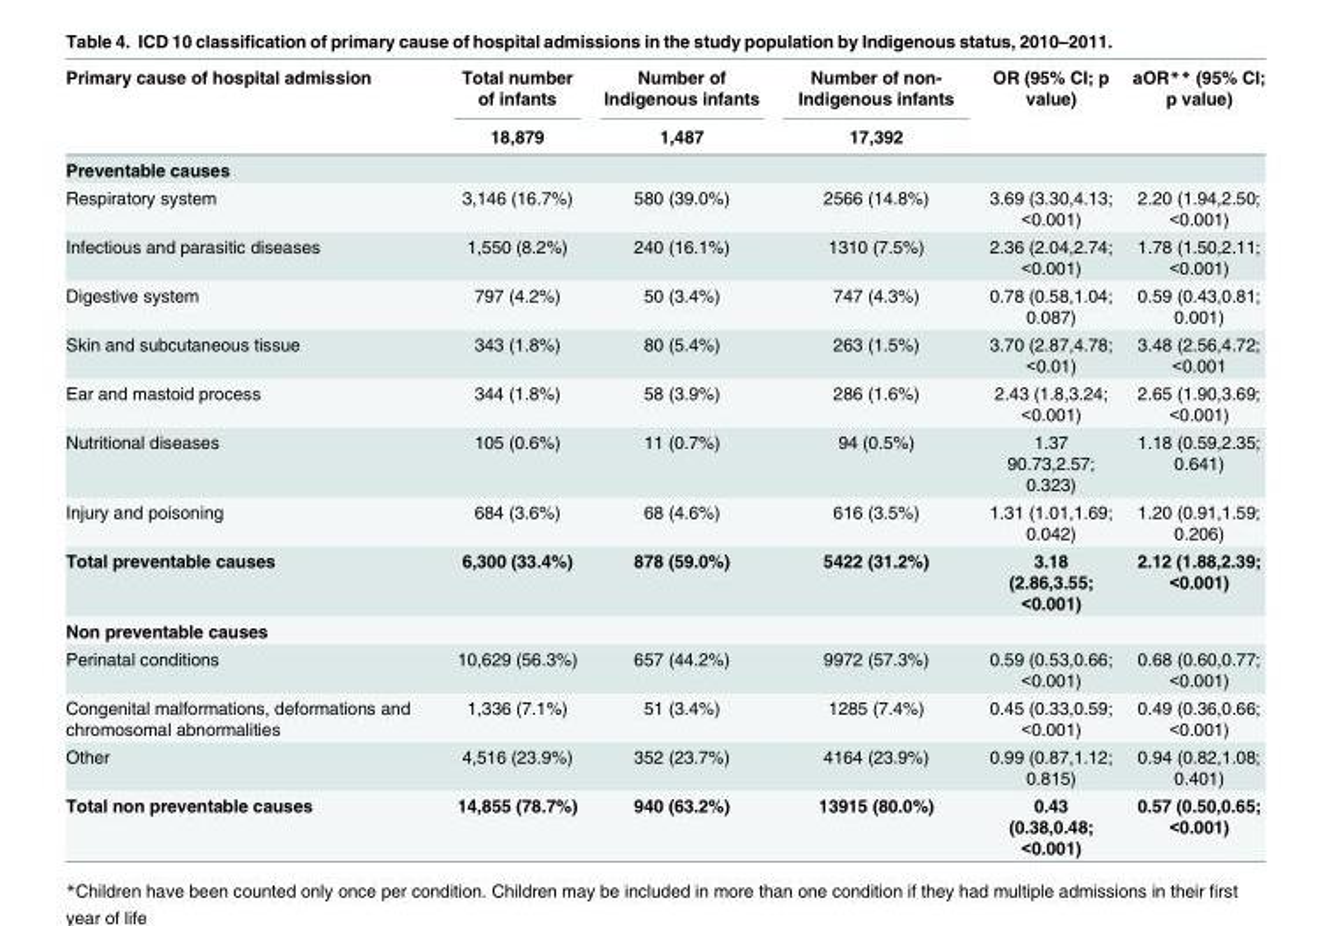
<table><thead><tr><td rowspan="2">Primary cause of hospital admission</td><td rowspan="2">Total number of infants 18,879</td><td rowspan="2">Number of Indigenous infants 1,487</td><td rowspan="2">Number of non- Indigenous infants 17,392</td><td rowspan="2">OR (95% CI; p value)</td><td rowspan="2">aOR** (95% CI; p value)</td></tr><tr></tr></thead><tbody><tr><td colspan="6">Preventable causes</td></tr><tr><td>Respiratory system</td><td>3,146 (16.7%)</td><td>580 (39.0%)</td><td>2566 (14.8%)</td><td>3.69 (3.30,4.13; &lt;0.001)</td><td>2.20 (1.94,2.50; &lt;0.001)</td></tr><tr><td>Infectious and parasitic diseases</td><td>1,550 (8.2%)</td><td>240 (16.1%)</td><td>1310 (7.5%)</td><td>2.36 (2.04,2.74; &lt;0.001)</td><td>1.78 (1.50,2.11; &lt;0.001)</td></tr><tr><td>Digestive system</td><td>797 (4.2%)</td><td>50 (3.4%)</td><td>747 (4.3%)</td><td>0.78 (0.58,1.04; 0.087)</td><td>0.59 (0.43,0.81; 0.001)</td></tr><tr><td>Skin and subcutaneous tissue</td><td>343 (1.8%)</td><td>80 (5.4%)</td><td>263 (1.5%)</td><td>3.70 (2.87,4.78; &lt;0.01)</td><td>3.48 (2.56,4.72; &lt;0.001</td></tr><tr><td>Ear and mastoid process</td><td>344 (1.8%)</td><td>58 (3.9%)</td><td>286 (1.6%)</td><td>2.43 (1.8,3.24; &lt;0.001)</td><td>2.65 (1.90,3.69; &lt;0.001)</td></tr><tr><td>Nutritional diseases</td><td>105 (0.6%)</td><td>11 (0.7%)</td><td>94 (0.5%)</td><td>1.37 90.73,2.57; 0.323)</td><td>1.18 (0.59,2.35; 0.641)</td></tr><tr><td>Injury and poisoning</td><td>684 (3.6%)</td><td>68 (4.6%)</td><td>616 (3.5%)</td><td>1.31 (1.01,1.69; 0.042)</td><td>1.20 (0.91,1.59; 0.206)</td></tr><tr><td>Total preventable causes</td><td>6,300 (33.4%)</td><td>878 (59.0%)</td><td>5422 (31.2%)</td><td>3.18 (2.86,3.55; &lt;0.001)</td><td>2.12 (1.88,2.39; &lt;0.001)</td></tr><tr><td colspan="6">Non preventable causes</td></tr><tr><td>Perinatal conditions</td><td>10,629 (56.3%)</td><td>657 (44.2%)</td><td>9972 (57.3%)</td><td>0.59 (0.53,0.66; &lt;0.001)</td><td>0.68 (0.60,0.77; &lt;0.001)</td></tr><tr><td>Congenital malformations, deformations and chromosomal abnormalities</td><td>1,336 (7.1%)</td><td>51 (3.4%)</td><td>1285 (7.4%)</td><td>0.45 (0.33,0.59; &lt;0.001)</td><td>0.49 (0.36,0.66; &lt;0.001)</td></tr><tr><td>Other</td><td>4,516 (23.9%)</td><td>352 (23.7%)</td><td>4164 (23.9%)</td><td>0.99 (0.87,1.12; 0.815)</td><td>0.94 (0.82,1.08; 0.401)</td></tr><tr><td>Total non preventable causes</td><td>14,855 (78.7%)</td><td>940 (63.2%)</td><td>13915 (80.0%)</td><td>0.43 (0.38,0.48; &lt;0.001)</td><td>0.57 (0.50,0.65; &lt;0.001)</td></tr></tbody></table>